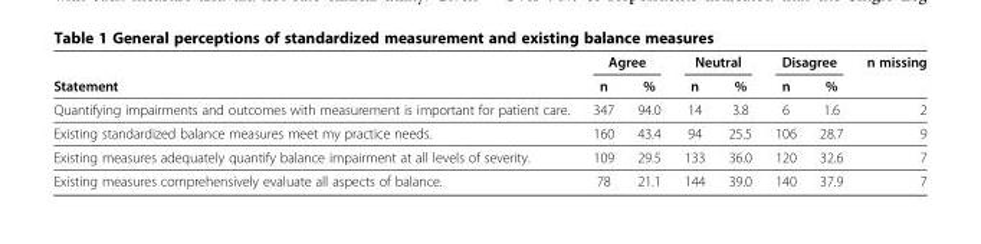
<table><thead><tr><td rowspan="2">Statement</td><td colspan="2">Agree</td><td colspan="2">Neutral</td><td colspan="2">Disagree</td><td rowspan="2">n missing</td></tr><tr><td>n</td><td>%</td><td>n</td><td>%</td><td>n</td><td>%</td></tr></thead><tbody><tr><td>Quantifying impairments and outcomes with measurement is important for patient care.</td><td>347</td><td>94.0</td><td>14</td><td>3.8</td><td>6</td><td>1.6</td><td>2</td></tr><tr><td>Existing standardized balance measures meet my practice needs.</td><td>160</td><td>43.4</td><td>94</td><td>25.5</td><td>106</td><td>28.7</td><td>9</td></tr><tr><td>Existing measures adequately quantify balance impairment at all levels of severity.</td><td>109</td><td>29.5</td><td>133</td><td>36.0</td><td>120</td><td>32.6</td><td>7</td></tr><tr><td>Existing measures comprehensively evaluate all aspects of balance.</td><td>78</td><td>21.1</td><td>144</td><td>39.0</td><td>140</td><td>37.9</td><td>7</td></tr></tbody></table>